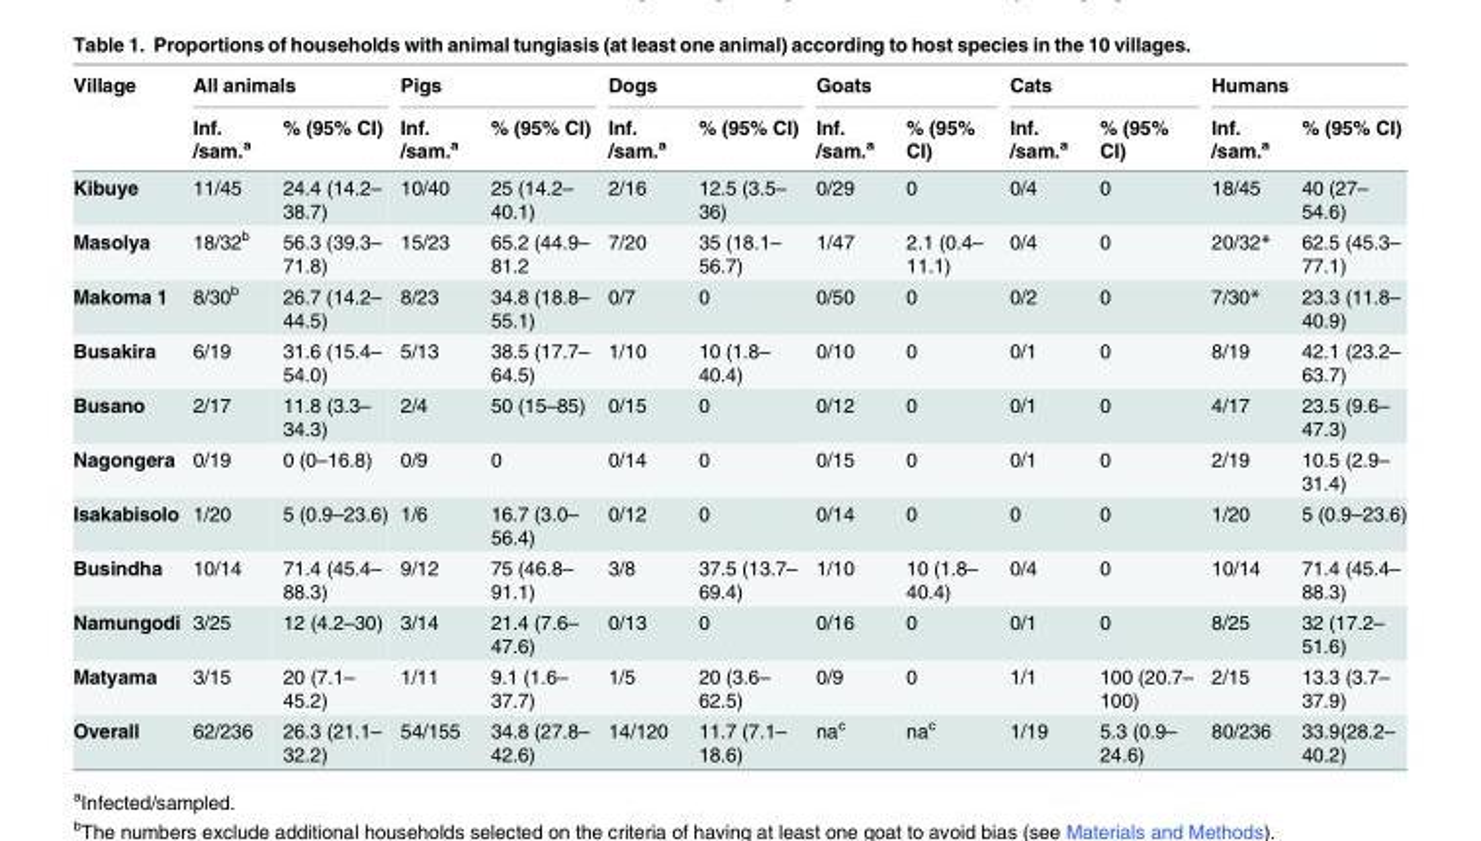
<table><thead><tr><td rowspan="2">Village</td><td colspan="2">All animals</td><td colspan="2">Pigs</td><td colspan="2">Dogs</td><td colspan="2">Goats</td><td colspan="2">Cats</td><td colspan="2">Humans</td></tr><tr><td>Inf. /sam.<sup>a</sup></td><td>% (95% CI)</td><td>Inf. /sam.<sup>a</sup></td><td>% (95% CI)</td><td>Inf. /sam.<sup>a</sup></td><td>% (95% CI)</td><td>Inf. /sam.<sup>a</sup></td><td>% (95% CI)</td><td>Inf. /sam.<sup>a</sup></td><td>% (95% CI)</td><td>Inf. /sam.<sup>a</sup></td><td>% (95% CI)</td></tr></thead><tbody><tr><td>Kibuye</td><td>11/45</td><td>24.4 (14.2– 38.7)</td><td>10/40</td><td>25 (14.2– 40.1)</td><td>2/16</td><td>12.5 (3.5– 36)</td><td>0/29</td><td>0</td><td>0/4</td><td>0</td><td>18/45</td><td>40 (27– 54.6)</td></tr><tr><td>Masolya</td><td>18/32<sup>b</sup></td><td>56.3 (39.3– 71.8)</td><td>15/23</td><td>65.2 (44.9– 81.2</td><td>7/20</td><td>35 (18.1– 56.7)</td><td>1/47</td><td>2.1 (0.4– 11.1)</td><td>0/4</td><td>0</td><td>20/32*</td><td>62.5 (45.3– 77.1)</td></tr><tr><td>Makoma 1</td><td>8/30<sup>b</sup></td><td>26.7 (14.2– 44.5)</td><td>8/23</td><td>34.8 (18.8– 55.1)</td><td>0/7</td><td>0</td><td>0/50</td><td>0</td><td>0/2</td><td>0</td><td>7/30*</td><td>23.3 (11.8– 40.9)</td></tr><tr><td>Busakira</td><td>6/19</td><td>31.6 (15.4– 54.0)</td><td>5/13</td><td>38.5 (17.7– 64.5)</td><td>1/10</td><td>10 (1.8– 40.4)</td><td>0/10</td><td>0</td><td>0/1</td><td>0</td><td>8/19</td><td>42.1 (23.2– 63.7)</td></tr><tr><td>Busano</td><td>2/17</td><td>11.8 (3.3– 34.3)</td><td>2/4</td><td>50 (15–85)</td><td>0/15</td><td>0</td><td>0/12</td><td>0</td><td>0/1</td><td>0</td><td>4/17</td><td>23.5 (9.6– 47.3)</td></tr><tr><td>Nagongera</td><td>0/19</td><td>0 (0–16.8)</td><td>0/9</td><td>0</td><td>0/14</td><td>0</td><td>0/15</td><td>0</td><td>0/1</td><td>0</td><td>2/19</td><td>10.5 (2.9– 31.4)</td></tr><tr><td>Isakabisolo</td><td>1/20</td><td>5 (0.9–23.6)</td><td>1/6</td><td>16.7 (3.0– 56.4)</td><td>0/12</td><td>0</td><td>0/14</td><td>0</td><td>0</td><td>0</td><td>1/20</td><td>5 (0.9–23.6)</td></tr><tr><td>Busindha</td><td>10/14</td><td>71.4 (45.4– 88.3)</td><td>9/12</td><td>75 (46.8– 91.1)</td><td>3/8</td><td>37.5 (13.7– 69.4)</td><td>1/10</td><td>10 (1.8– 40.4)</td><td>0/4</td><td>0</td><td>10/14</td><td>71.4 (45.4– 88.3)</td></tr><tr><td>Namungodi</td><td>3/25</td><td>12 (4.2–30)</td><td>3/14</td><td>21.4 (7.6– 47.6)</td><td>0/13</td><td>0</td><td>0/16</td><td>0</td><td>0/1</td><td>0</td><td>8/25</td><td>32 (17.2– 51.6)</td></tr><tr><td>Matyama</td><td>3/15</td><td>20 (7.1– 45.2)</td><td>1/11</td><td>9.1 (1.6– 37.7)</td><td>1/5</td><td>20 (3.6– 62.5)</td><td>0/9</td><td>0</td><td>1/1</td><td>100 (20.7– 100)</td><td>2/15</td><td>13.3 (3.7– 37.9)</td></tr><tr><td>Overall</td><td>62/236</td><td>26.3 (21.1– 32.2)</td><td>54/155</td><td>34.8 (27.8– 42.6)</td><td>14/120</td><td>11.7 (7.1– 18.6)</td><td>na<sup>c</sup></td><td>na<sup>c</sup></td><td>1/19</td><td>5.3 (0.9– 24.6)</td><td>80/236</td><td>33.9(28.2– 40.2)</td></tr></tbody></table>